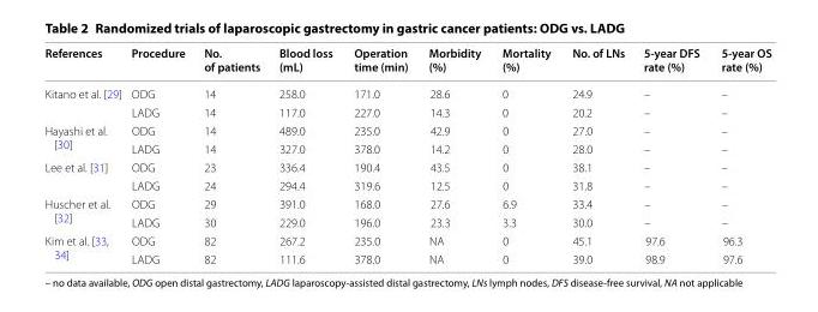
<table><thead><tr><td>References</td><td>Procedure</td><td>No. of patients</td><td>Blood loss (mL)</td><td>Operation time (min)</td><td>Morbidity (%)</td><td>Mortality (%)</td><td>No. of LNs</td><td>5-year DFS rate (%)</td><td>5-year OS rate (%)</td></tr></thead><tbody><tr><td rowspan="2">Kitano et al. [29]</td><td>ODG</td><td>14</td><td>258.0</td><td>171.0</td><td>28.6</td><td>0</td><td>24.9</td><td>–</td><td>–</td></tr><tr><td>LADG</td><td>14</td><td>117.0</td><td>227.0</td><td>14.3</td><td>0</td><td>20.2</td><td>–</td><td>–</td></tr><tr><td rowspan="2">Hayashi et al. [30]</td><td>ODG</td><td>14</td><td>489.0</td><td>235.0</td><td>42.9</td><td>0</td><td>27.0</td><td>–</td><td>–</td></tr><tr><td>LADG</td><td>14</td><td>327.0</td><td>378.0</td><td>14.2</td><td>0</td><td>28.0</td><td>–</td><td>–</td></tr><tr><td rowspan="2">Lee et al. [31]</td><td>ODG</td><td>23</td><td>336.4</td><td>190.4</td><td>43.5</td><td>0</td><td>38.1</td><td>–</td><td>–</td></tr><tr><td>LADG</td><td>24</td><td>294.4</td><td>319.6</td><td>12.5</td><td>0</td><td>31.8</td><td>–</td><td>–</td></tr><tr><td rowspan="2">Huscher et al. [32]</td><td>ODG</td><td>29</td><td>391.0</td><td>168.0</td><td>27.6</td><td>6.9</td><td>33.4</td><td>–</td><td>–</td></tr><tr><td>LADG</td><td>30</td><td>229.0</td><td>196.0</td><td>23.3</td><td>3.3</td><td>30.0</td><td>–</td><td>–</td></tr><tr><td rowspan="2">Kim et al. [33, 34]</td><td>ODG</td><td>82</td><td>267.2</td><td>235.0</td><td>NA</td><td>0</td><td>45.1</td><td>97.6</td><td>96.3</td></tr><tr><td>LADG</td><td>82</td><td>111.6</td><td>378.0</td><td>NA</td><td>0</td><td>39.0</td><td>98.9</td><td>97.6</td></tr></tbody></table>